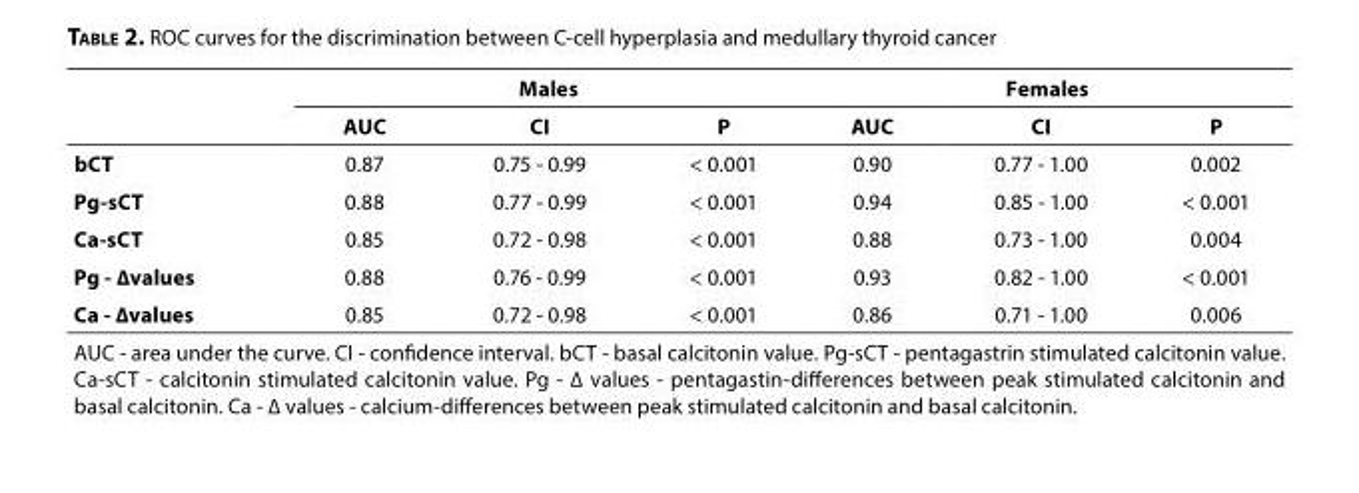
<table><thead><tr><td rowspan="2"></td><td colspan="3">Males</td><td colspan="3">Females</td></tr><tr><td>AUC</td><td>CI</td><td>P</td><td>AUC</td><td>CI</td><td>P</td></tr></thead><tbody><tr><td>bCT</td><td>0.87</td><td>0.75 - 0.99</td><td>&lt; 0.001</td><td>0.90</td><td>0.77 - 1.00</td><td>0.002</td></tr><tr><td>Pg-sCT</td><td>0.88</td><td>0.77 - 0.99</td><td>&lt; 0.001</td><td>0.94</td><td>0.85 - 1.00</td><td>&lt; 0.001</td></tr><tr><td>Ca-sCT</td><td>0.85</td><td>0.72 - 0.98</td><td>&lt; 0.001</td><td>0.88</td><td>0.73 - 1.00</td><td>0.004</td></tr><tr><td>Pg - ∆values</td><td>0.88</td><td>0.76 - 0.99</td><td>&lt; 0.001</td><td>0.93</td><td>0.82 - 1.00</td><td>&lt; 0.001</td></tr><tr><td>Ca - ∆values</td><td>0.85</td><td>0.72 - 0.98</td><td>&lt; 0.001</td><td>0.86</td><td>0.71 - 1.00</td><td>0.006</td></tr><tr><td colspan="7">AUC - area under the curve. CI - confidence interval. bCT - basal calcitonin value. Pg-sCT - pentagastrin stimulated calcitonin value. Ca-sCT - calcitonin stimulated calcitonin value. Pg - ∆ values - pentagastin-differences between peak stimulated calcitonin and basal calcitonin. Ca - ∆ values - calcium-differences between peak stimulated calcitonin and basal calcitonin.</td></tr></tbody></table>